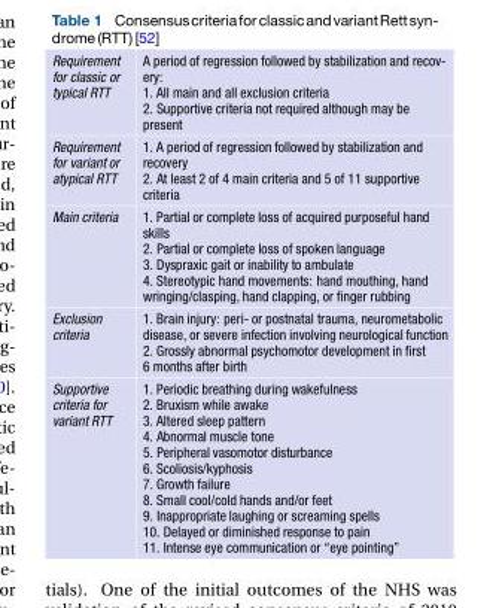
<table><tbody><tr><td>Requirement for classic or typical RTT</td><td>A period of regression followed by stabilization and recov- ery: 1. All main and all exclusion criteria 2. Supportive criteria not required although may be present</td></tr><tr><td>Requirement for variant or atypical RTT</td><td>1. A period of regression followed by stabilization and recovery 2. At least 2 of 4 main criteria and 5 of 11 supportive criteria</td></tr><tr><td>Main criteria</td><td>1. Partial or complete loss of acquired purposeful hand skills 2. Partial or complete loss of spoken language 3. Dyspraxic gait or inability to ambulate 4. Stereotypic hand movements: hand mouthing, hand wringing/clasping, hand clapping, or finger rubbing</td></tr><tr><td>Exclusion criteria</td><td>1. Brain injury: peri- or postnatal trauma, neurometabolic disease, or severe infection involving neurological function 2. Grossly abnormal psychomotor development in first 6 months after birth</td></tr><tr><td>Supportive criteria for variant RTT</td><td>1. Periodic breathing during wakefulness 2. Bruxism while awake 3. Altered sleep pattern 4. Abnormal muscle tone 5. Peripheral vasomotor disturbance 6. Scoliosis/kyphosis 7. Growth failure 8. Small cool/cold hands and/or feet 9. Inappropriate laughing or screaming spells 10. Delayed or diminished response to pain 11. Intense eye communication or “eye pointing”</td></tr></tbody></table>